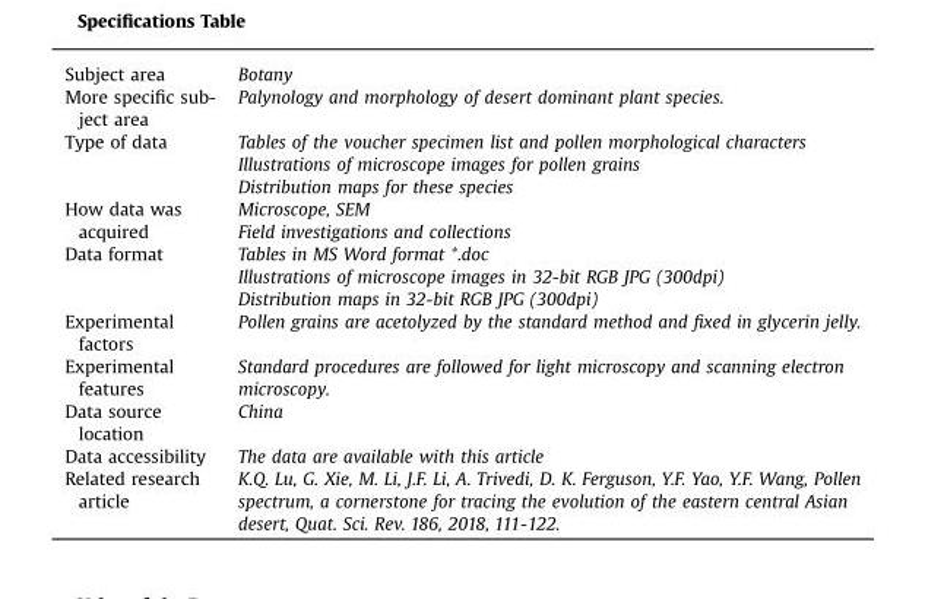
<table><tbody><tr><td>Subject area</td><td>Botany</td></tr><tr><td>More specific sub- ject area</td><td>Palynology and morphology of desert dominant plant species.</td></tr><tr><td rowspan="3">Type of data</td><td>Tables of the voucher specimen list and pollen morphological characters</td></tr><tr><td>Illustrations of microscope images for pollen grains</td></tr><tr><td>Distribution maps for these species</td></tr><tr><td rowspan="2">How data was acquired</td><td>Microscope, SEM</td></tr><tr><td>Field investigations and collections</td></tr><tr><td rowspan="3">Data format</td><td>Tables in MS Word format *.doc</td></tr><tr><td>Illustrations of microscope images in 32-bit RGB JPG (300dpi)</td></tr><tr><td>Distribution maps in 32-bit RGB JPG (300dpi)</td></tr><tr><td>Experimental factors</td><td>Pollen grains are acetolyzed by the standard method and fixed in glycerin jelly.</td></tr><tr><td>Experimental features</td><td>Standard procedures are followed for light microscopy and scanning electron microscopy.</td></tr><tr><td>Data source location</td><td>China</td></tr><tr><td>Data accessibility</td><td>The data are available with this article</td></tr><tr><td>Related research article</td><td>K.Q. Lu, G. Xie, M. Li, J.F. Li, A. Trivedi, D. K. Ferguson, Y.F. Yao, Y.F. Wang, Pollen spectrum, a cornerstone for tracing the evolution of the eastern central Asian desert, Quat. Sci. Rev. 186, 2018, 111-122.</td></tr></tbody></table>